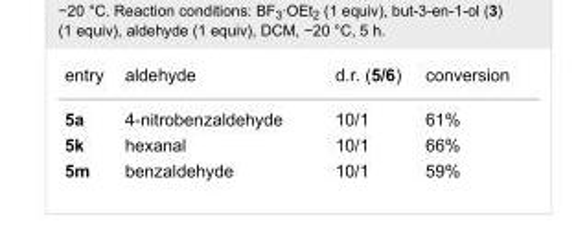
<table><tbody><tr><td>entry</td><td>aldehyde</td><td>d.r. (5/6)</td><td>conversion</td></tr><tr><td>5a</td><td>4-nitrobenzaldehyde</td><td>10/1</td><td>61%</td></tr><tr><td>5k</td><td>hexanal</td><td>10/1</td><td>66%</td></tr><tr><td>5m</td><td>benzaldehyde</td><td>10/1</td><td>59%</td></tr></tbody></table>